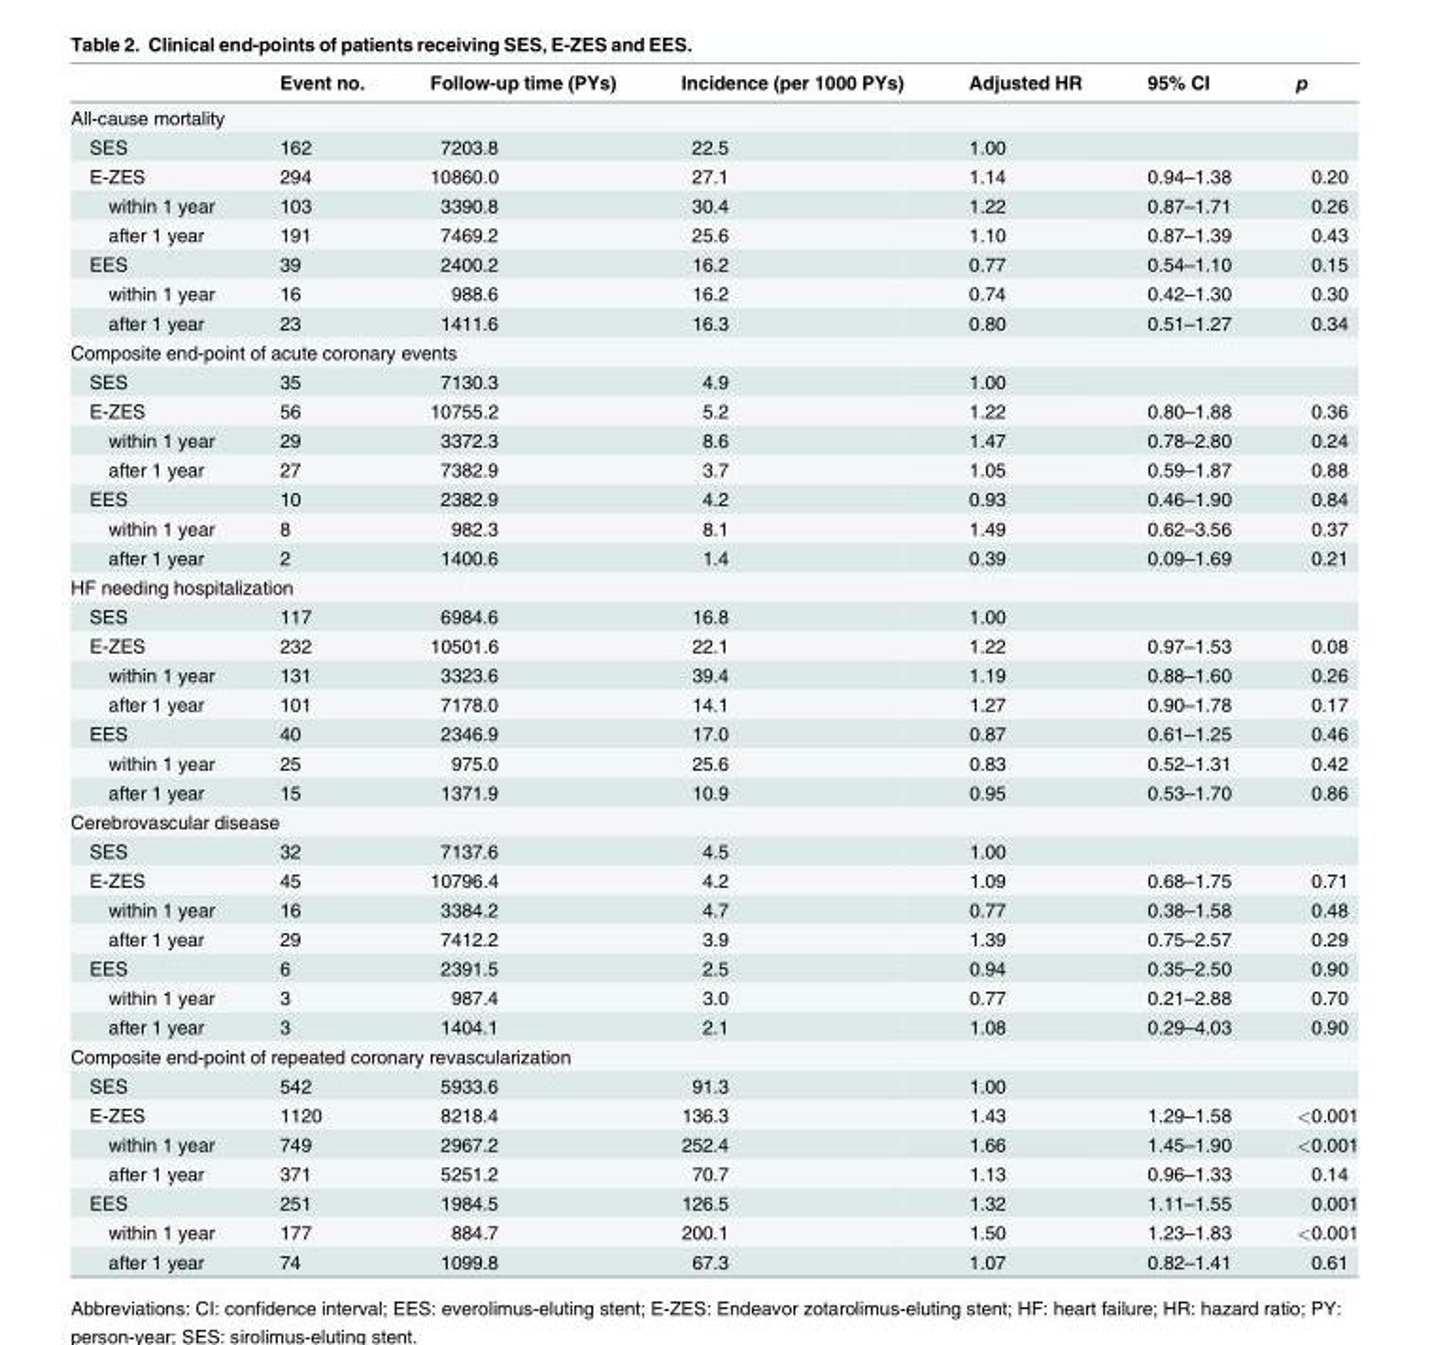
<table><thead><tr><td></td><td>Event no.</td><td>Follow-up time (PYs)</td><td>Incidence (per 1000 PYs)</td><td>Adjusted HR</td><td>95% CI</td><td>p</td></tr></thead><tbody><tr><td colspan="7">All-cause mortality</td></tr><tr><td>SES</td><td>162</td><td>7203.8</td><td>22.5</td><td>1.00</td><td></td><td></td></tr><tr><td>E-ZES</td><td>294</td><td>10860.0</td><td>27.1</td><td>1.14</td><td>0.94–1.38</td><td>0.20</td></tr><tr><td>within 1 year</td><td>103</td><td>3390.8</td><td>30.4</td><td>1.22</td><td>0.87–1.71</td><td>0.26</td></tr><tr><td>after 1 year</td><td>191</td><td>7469.2</td><td>25.6</td><td>1.10</td><td>0.87–1.39</td><td>0.43</td></tr><tr><td>EES</td><td>39</td><td>2400.2</td><td>16.2</td><td>0.77</td><td>0.54–1.10</td><td>0.15</td></tr><tr><td>within 1 year</td><td>16</td><td>988.6</td><td>16.2</td><td>0.74</td><td>0.42–1.30</td><td>0.30</td></tr><tr><td>after 1 year</td><td>23</td><td>1411.6</td><td>16.3</td><td>0.80</td><td>0.51–1.27</td><td>0.34</td></tr><tr><td colspan="7">Composite end-point of acute coronary events</td></tr><tr><td>SES</td><td>35</td><td>7130.3</td><td>4.9</td><td>1.00</td><td></td><td></td></tr><tr><td>E-ZES</td><td>56</td><td>10755.2</td><td>5.2</td><td>1.22</td><td>0.80–1.88</td><td>0.36</td></tr><tr><td>within 1 year</td><td>29</td><td>3372.3</td><td>8.6</td><td>1.47</td><td>0.78–2.80</td><td>0.24</td></tr><tr><td>after 1 year</td><td>27</td><td>7382.9</td><td>3.7</td><td>1.05</td><td>0.59–1.87</td><td>0.88</td></tr><tr><td>EES</td><td>10</td><td>2382.9</td><td>4.2</td><td>0.93</td><td>0.46–1.90</td><td>0.84</td></tr><tr><td>within 1 year</td><td>8</td><td>982.3</td><td>8.1</td><td>1.49</td><td>0.62–3.56</td><td>0.37</td></tr><tr><td>after 1 year</td><td>2</td><td>1400.6</td><td>1.4</td><td>0.39</td><td>0.09–1.69</td><td>0.21</td></tr><tr><td colspan="7">HF needing hospitalization</td></tr><tr><td>SES</td><td>117</td><td>6984.6</td><td>16.8</td><td>1.00</td><td></td><td></td></tr><tr><td>E-ZES</td><td>232</td><td>10501.6</td><td>22.1</td><td>1.22</td><td>0.97–1.53</td><td>0.08</td></tr><tr><td>within 1 year</td><td>131</td><td>3323.6</td><td>39.4</td><td>1.19</td><td>0.88–1.60</td><td>0.26</td></tr><tr><td>after 1 year</td><td>101</td><td>7178.0</td><td>14.1</td><td>1.27</td><td>0.90–1.78</td><td>0.17</td></tr><tr><td>EES</td><td>40</td><td>2346.9</td><td>17.0</td><td>0.87</td><td>0.61–1.25</td><td>0.46</td></tr><tr><td>within 1 year</td><td>25</td><td>975.0</td><td>25.6</td><td>0.83</td><td>0.52–1.31</td><td>0.42</td></tr><tr><td>after 1 year</td><td>15</td><td>1371.9</td><td>10.9</td><td>0.95</td><td>0.53–1.70</td><td>0.86</td></tr><tr><td colspan="7">Cerebrovascular disease</td></tr><tr><td>SES</td><td>32</td><td>7137.6</td><td>4.5</td><td>1.00</td><td></td><td></td></tr><tr><td>E-ZES</td><td>45</td><td>10796.4</td><td>4.2</td><td>1.09</td><td>0.68–1.75</td><td>0.71</td></tr><tr><td>within 1 year</td><td>16</td><td>3384.2</td><td>4.7</td><td>0.77</td><td>0.38–1.58</td><td>0.48</td></tr><tr><td>after 1 year</td><td>29</td><td>7412.2</td><td>3.9</td><td>1.39</td><td>0.75–2.57</td><td>0.29</td></tr><tr><td>EES</td><td>6</td><td>2391.5</td><td>2.5</td><td>0.94</td><td>0.35–2.50</td><td>0.90</td></tr><tr><td>within 1 year</td><td>3</td><td>987.4</td><td>3.0</td><td>0.77</td><td>0.21–2.88</td><td>0.70</td></tr><tr><td>after 1 year</td><td>3</td><td>1404.1</td><td>2.1</td><td>1.08</td><td>0.29–4.03</td><td>0.90</td></tr><tr><td colspan="7">Composite end-point of repeated coronary revascularization</td></tr><tr><td>SES</td><td>542</td><td>5933.6</td><td>91.3</td><td>1.00</td><td></td><td></td></tr><tr><td>E-ZES</td><td>1120</td><td>8218.4</td><td>136.3</td><td>1.43</td><td>1.29–1.58</td><td>&lt;0.001</td></tr><tr><td>within 1 year</td><td>749</td><td>2967.2</td><td>252.4</td><td>1.66</td><td>1.45–1.90</td><td>&lt;0.001</td></tr><tr><td>after 1 year</td><td>371</td><td>5251.2</td><td>70.7</td><td>1.13</td><td>0.96–1.33</td><td>0.14</td></tr><tr><td>EES</td><td>251</td><td>1984.5</td><td>126.5</td><td>1.32</td><td>1.11–1.55</td><td>0.001</td></tr><tr><td>within 1 year</td><td>177</td><td>884.7</td><td>200.1</td><td>1.50</td><td>1.23–1.83</td><td>&lt;0.001</td></tr><tr><td>after 1 year</td><td>74</td><td>1099.8</td><td>67.3</td><td>1.07</td><td>0.82–1.41</td><td>0.61</td></tr></tbody></table>